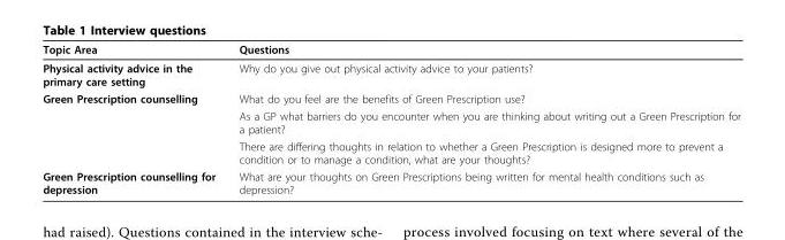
<table><thead><tr><td>Topic Area</td><td>Questions</td></tr></thead><tbody><tr><td>Physical activity advice in the primary care setting</td><td>Why do you give out physical activity advice to your patients?</td></tr><tr><td rowspan="3">Green Prescription counselling</td><td>What do you feel are the benefits of Green Prescription use?</td></tr><tr><td>As a GP what barriers do you encounter when you are thinking about writing out a Green Prescription for a patient?</td></tr><tr><td>There are differing thoughts in relation to whether a Green Prescription is designed more to prevent a condition or to manage a condition, what are your thoughts?</td></tr><tr><td>Green Prescription counselling for depression</td><td>What are your thoughts on Green Prescriptions being written for mental health conditions such as depression?</td></tr></tbody></table>